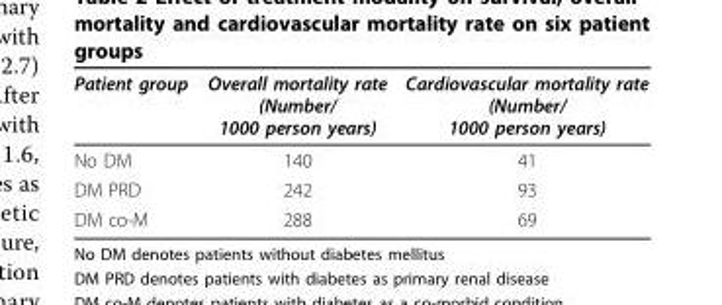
<table><thead><tr><td>Patient group</td><td>Overall mortality rate (Number/ 1000 person years)</td><td>Cardiovascular mortality rate (Number/ 1000 person years)</td></tr></thead><tbody><tr><td>No DM</td><td>140</td><td>41</td></tr><tr><td>DM PRD</td><td>242</td><td>93</td></tr><tr><td>DM co-M</td><td>288</td><td>69</td></tr></tbody></table>